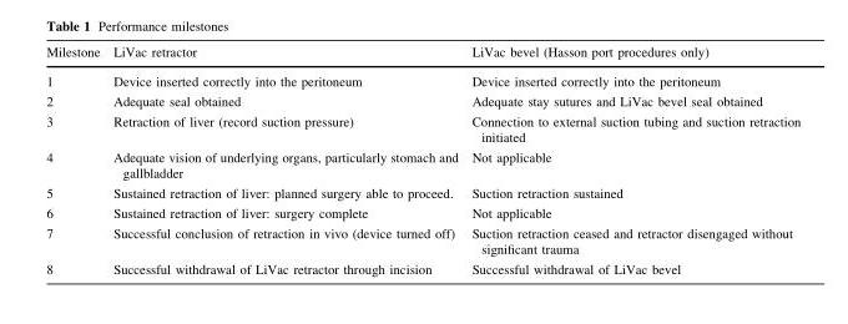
<table><thead><tr><td>Milestone</td><td>LiVac retractor</td><td>LiVac bevel (Hasson port procedures only)</td></tr></thead><tbody><tr><td>1</td><td>Device inserted correctly into the peritoneum</td><td>Device inserted correctly into the peritoneum</td></tr><tr><td>2</td><td>Adequate seal obtained</td><td>Adequate stay sutures and LiVac bevel seal obtained</td></tr><tr><td>3</td><td>Retraction of liver (record suction pressure)</td><td>Connection to external suction tubing and suction retraction initiated</td></tr><tr><td>4</td><td>Adequate vision of underlying organs, particularly stomach and gallbladder</td><td>Not applicable</td></tr><tr><td>5</td><td>Sustained retraction of liver: planned surgery able to proceed.</td><td>Suction retraction sustained</td></tr><tr><td>6</td><td>Sustained retraction of liver: surgery complete</td><td>Not applicable</td></tr><tr><td>7</td><td>Successful conclusion of retraction in vivo (device turned off)</td><td>Suction retraction ceased and retractor disengaged without significant trauma</td></tr><tr><td>8</td><td>Successful withdrawal of LiVac retractor through incision</td><td>Successful withdrawal of LiVac bevel</td></tr></tbody></table>